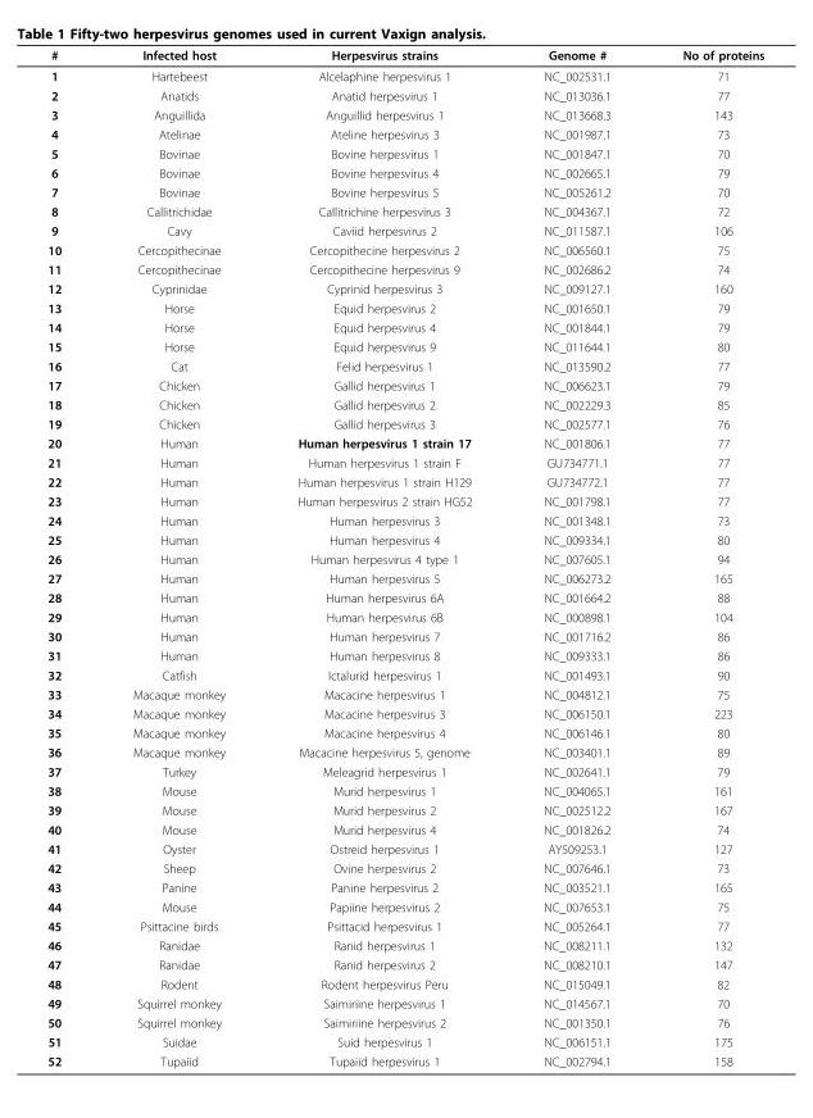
<table><thead><tr><td>#</td><td>Infected host</td><td>Herpesvirus strains</td><td>Genome #</td><td>No of proteins</td></tr></thead><tbody><tr><td>1</td><td>Hartebeest</td><td>Alcelaphine herpesvirus 1</td><td>NC_002531.1</td><td>71</td></tr><tr><td>2</td><td>Anatids</td><td>Anatid herpesvirus 1</td><td>NC_013036.1</td><td>77</td></tr><tr><td>3</td><td>Anguillida</td><td>Anguillid herpesvirus 1</td><td>NC_013668.3</td><td>143</td></tr><tr><td>4</td><td>Atelinae</td><td>Ateline herpesvirus 3</td><td>NC_001987.1</td><td>73</td></tr><tr><td>5</td><td>Bovinae</td><td>Bovine herpesvirus 1</td><td>NC_001847.1</td><td>70</td></tr><tr><td>6</td><td>Bovinae</td><td>Bovine herpesvirus 4</td><td>NC_002665.1</td><td>79</td></tr><tr><td>7</td><td>Bovinae</td><td>Bovine herpesvirus 5</td><td>NC_005261.2</td><td>70</td></tr><tr><td>8</td><td>Callitrichidae</td><td>Callitrichine herpesvirus 3</td><td>NC_004367.1</td><td>72</td></tr><tr><td>9</td><td>Cavy</td><td>Caviid herpesvirus 2</td><td>NC_011587.1</td><td>106</td></tr><tr><td>10</td><td>Cercopithecinae</td><td>Cercopithecine herpesvirus 2</td><td>NC_006560.1</td><td>75</td></tr><tr><td>11</td><td>Cercopithecinae</td><td>Cercopithecine herpesvirus 9</td><td>NC_002686.2</td><td>74</td></tr><tr><td>12</td><td>Cyprinidae</td><td>Cyprinid herpesvirus 3</td><td>NC_009127.1</td><td>160</td></tr><tr><td>13</td><td>Horse</td><td>Equid herpesvirus 2</td><td>NC_001650.1</td><td>79</td></tr><tr><td>14</td><td>Horse</td><td>Equid herpesvirus 4</td><td>NC_001844.1</td><td>79</td></tr><tr><td>15</td><td>Horse</td><td>Equid herpesvirus 9</td><td>NC_011644.1</td><td>80</td></tr><tr><td>16</td><td>Cat</td><td>Felid herpesvirus 1</td><td>NC_013590.2</td><td>77</td></tr><tr><td>17</td><td>Chicken</td><td>Gallid herpesvirus 1</td><td>NC_006623.1</td><td>79</td></tr><tr><td>18</td><td>Chicken</td><td>Gallid herpesvirus 2</td><td>NC_002229.3</td><td>85</td></tr><tr><td>19</td><td>Chicken</td><td>Gallid herpesvirus 3</td><td>NC_002577.1</td><td>76</td></tr><tr><td>20</td><td>Human</td><td>Human herpesvirus 1 strain 17</td><td>NC_001806.1</td><td>77</td></tr><tr><td>21</td><td>Human</td><td>Human herpesvirus 1 strain F</td><td>GU734771.1</td><td>77</td></tr><tr><td>22</td><td>Human</td><td>Human herpesvirus 1 strain H129</td><td>GU734772.1</td><td>77</td></tr><tr><td>23</td><td>Human</td><td>Human herpesvirus 2 strain HG52</td><td>NC_001798.1</td><td>77</td></tr><tr><td>24</td><td>Human</td><td>Human herpesvirus 3</td><td>NC_001348.1</td><td>73</td></tr><tr><td>25</td><td>Human</td><td>Human herpesvirus 4</td><td>NC_009334.1</td><td>80</td></tr><tr><td>26</td><td>Human</td><td>Human herpesvirus 4 type 1</td><td>NC_007605.1</td><td>94</td></tr><tr><td>27</td><td>Human</td><td>Human herpesvirus 5</td><td>NC_006273.2</td><td>165</td></tr><tr><td>28</td><td>Human</td><td>Human herpesvirus 6A</td><td>NC_001664.2</td><td>88</td></tr><tr><td>29</td><td>Human</td><td>Human herpesvirus 6B</td><td>NC_000898.1</td><td>104</td></tr><tr><td>30</td><td>Human</td><td>Human herpesvirus 7</td><td>NC_001716.2</td><td>86</td></tr><tr><td>31</td><td>Human</td><td>Human herpesvirus 8</td><td>NC_009333.1</td><td>86</td></tr><tr><td>32</td><td>Catfish</td><td>Ictalurid herpesvirus 1</td><td>NC_001493.1</td><td>90</td></tr><tr><td>33</td><td>Macaque monkey</td><td>Macacine herpesvirus 1</td><td>NC_004812.1</td><td>75</td></tr><tr><td>34</td><td>Macaque monkey</td><td>Macacine herpesvirus 3</td><td>NC_006150.1</td><td>223</td></tr><tr><td>35</td><td>Macaque monkey</td><td>Macacine herpesvirus 4</td><td>NC_006146.1</td><td>80</td></tr><tr><td>36</td><td>Macaque monkey</td><td>Macacine herpesvirus 5, genome</td><td>NC_003401.1</td><td>89</td></tr><tr><td>37</td><td>Turkey</td><td>Meleagrid herpesvirus 1</td><td>NC_002641.1</td><td>79</td></tr><tr><td>38</td><td>Mouse</td><td>Murid herpesvirus 1</td><td>NC_004065.1</td><td>161</td></tr><tr><td>39</td><td>Mouse</td><td>Murid herpesvirus 2</td><td>NC_002512.2</td><td>167</td></tr><tr><td>40</td><td>Mouse</td><td>Murid herpesvirus 4</td><td>NC_001826.2</td><td>74</td></tr><tr><td>41</td><td>Oyster</td><td>Ostreid herpesvirus 1</td><td>AY509253.1</td><td>127</td></tr><tr><td>42</td><td>Sheep</td><td>Ovine herpesvirus 2</td><td>NC_007646.1</td><td>73</td></tr><tr><td>43</td><td>Panine</td><td>Panine herpesvirus 2</td><td>NC_003521.1</td><td>165</td></tr><tr><td>44</td><td>Mouse</td><td>Papiine herpesvirus 2</td><td>NC_007653.1</td><td>75</td></tr><tr><td>45</td><td>Psittacine birds</td><td>Psittacid herpesvirus 1</td><td>NC_005264.1</td><td>77</td></tr><tr><td>46</td><td>Ranidae</td><td>Ranid herpesvirus 1</td><td>NC_008211.1</td><td>132</td></tr><tr><td>47</td><td>Ranidae</td><td>Ranid herpesvirus 2</td><td>NC_008210.1</td><td>147</td></tr><tr><td>48</td><td>Rodent</td><td>Rodent herpesvirus Peru</td><td>NC_015049.1</td><td>82</td></tr><tr><td>49</td><td>Squirrel monkey</td><td>Saimiriine herpesvirus 1</td><td>NC_014567.1</td><td>70</td></tr><tr><td>50</td><td>Squirrel monkey</td><td>Saimiriine herpesvirus 2</td><td>NC_001350.1</td><td>76</td></tr><tr><td>51</td><td>Suidae</td><td>Suid herpesvirus 1</td><td>NC_006151.1</td><td>175</td></tr><tr><td>52</td><td>Tupaiid</td><td>Tupaiid herpesvirus 1</td><td>NC_002794.1</td><td>158</td></tr></tbody></table>